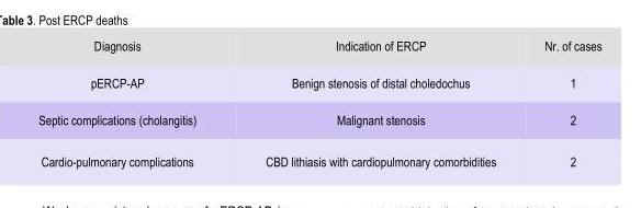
<table><thead><tr><td rowspan="4">Diagnosis pERCP-AP Septic complications (cholangitis) Cardio-pulmonary complications</td><td rowspan="4">Indication of ERCP Benign stenosis of distal choledochus Malignant stenosis CBD lithiasis with cardiopulmonary comorbidities</td><td rowspan="4">Nr. of cases 1 2 2</td></tr><tr></tr><tr></tr><tr></tr></thead><tbody></tbody></table>